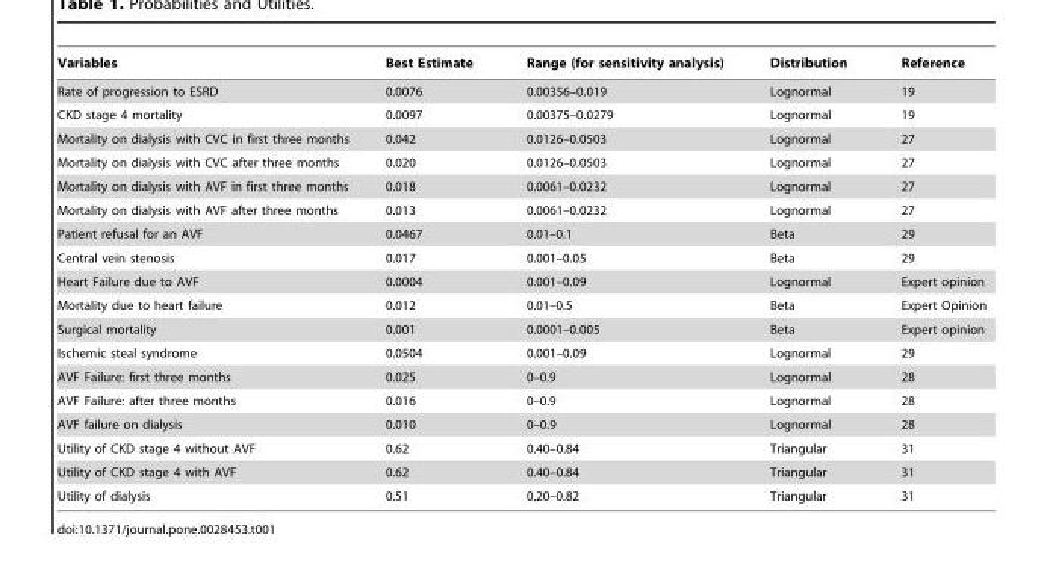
<table><thead><tr><td>Variables</td><td>Best Estimate</td><td>Range (for sensitivity analysis)</td><td>Distribution</td><td>Reference</td></tr></thead><tbody><tr><td>Rate of progression to ESRD</td><td>0.0076</td><td>0.00356–0.019</td><td>Lognormal</td><td>19</td></tr><tr><td>CKD stage 4 mortality</td><td>0.0097</td><td>0.00375–0.0279</td><td>Lognormal</td><td>19</td></tr><tr><td>Mortality on dialysis with CVC in first three months</td><td>0.042</td><td>0.0126–0.0503</td><td>Lognormal</td><td>27</td></tr><tr><td>Mortality on dialysis with CVC after three months</td><td>0.020</td><td>0.0126–0.0503</td><td>Lognormal</td><td>27</td></tr><tr><td>Mortality on dialysis with AVF in first three months</td><td>0.018</td><td>0.0061–0.0232</td><td>Lognormal</td><td>27</td></tr><tr><td>Mortality on dialysis with AVF after three months</td><td>0.013</td><td>0.0061–0.0232</td><td>Lognormal</td><td>27</td></tr><tr><td>Patient refusal for an AVF</td><td>0.0467</td><td>0.01–0.1</td><td>Beta</td><td>29</td></tr><tr><td>Central vein stenosis</td><td>0.017</td><td>0.001–0.05</td><td>Beta</td><td>29</td></tr><tr><td>Heart Failure due to AVF</td><td>0.0004</td><td>0.001–0.09</td><td>Lognormal</td><td>Expert opinion</td></tr><tr><td>Mortality due to heart failure</td><td>0.012</td><td>0.01–0.5</td><td>Beta</td><td>Expert Opinion</td></tr><tr><td>Surgical mortality</td><td>0.001</td><td>0.0001–0.005</td><td>Beta</td><td>Expert opinion</td></tr><tr><td>Ischemic steal syndrome</td><td>0.0504</td><td>0.001–0.09</td><td>Lognormal</td><td>29</td></tr><tr><td>AVF Failure: first three months</td><td>0.025</td><td>0–0.9</td><td>Lognormal</td><td>28</td></tr><tr><td>AVF Failure: after three months</td><td>0.016</td><td>0–0.9</td><td>Lognormal</td><td>28</td></tr><tr><td>AVF failure on dialysis</td><td>0.010</td><td>0–0.9</td><td>Lognormal</td><td>28</td></tr><tr><td>Utility of CKD stage 4 without AVF</td><td>0.62</td><td>0.40–0.84</td><td>Triangular</td><td>31</td></tr><tr><td>Utility of CKD stage 4 with AVF</td><td>0.62</td><td>0.40–0.84</td><td>Triangular</td><td>31</td></tr><tr><td>Utility of dialysis</td><td>0.51</td><td>0.20–0.82</td><td>Triangular</td><td>31</td></tr></tbody></table>